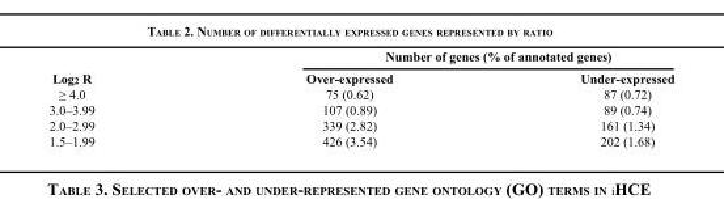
<table><thead><tr><td rowspan="2">Log<sub>2</sub> R</td><td colspan="2">Number of genes (% of annotated genes)</td></tr><tr><td>Over-expressed</td><td>Under-expressed</td></tr></thead><tbody><tr><td>≥ 4.0</td><td>75 (0.62)</td><td>87 (0.72)</td></tr><tr><td>3.0–3.99</td><td>107 (0.89)</td><td>89 (0.74)</td></tr><tr><td>2.0–2.99</td><td>339 (2.82)</td><td>161 (1.34)</td></tr><tr><td>1.5–1.99</td><td>426 (3.54)</td><td>202 (1.68)</td></tr></tbody></table>